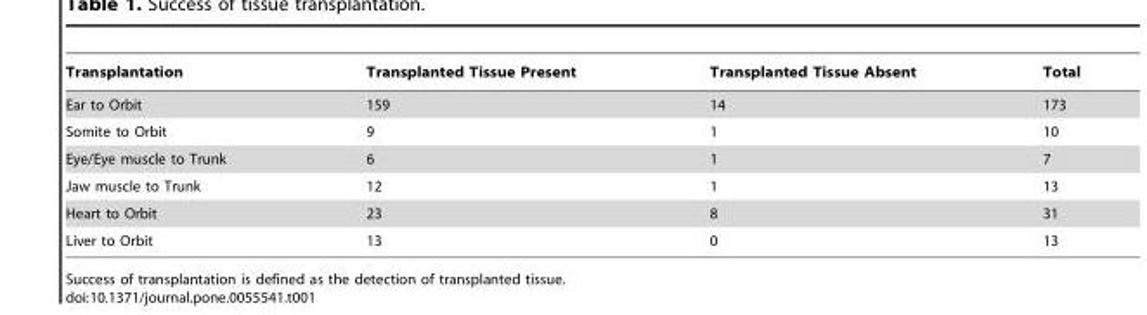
<table><thead><tr><td>Transplantation</td><td>Transplanted Tissue Present</td><td>Transplanted Tissue Absent</td><td>Total</td></tr></thead><tbody><tr><td>Ear to Orbit</td><td>159</td><td>14</td><td>173</td></tr><tr><td>Somite to Orbit</td><td>9</td><td>1</td><td>10</td></tr><tr><td>Eye/Eye muscle to Trunk</td><td>6</td><td>1</td><td>7</td></tr><tr><td>Jaw muscle to Trunk</td><td>12</td><td>1</td><td>13</td></tr><tr><td>Heart to Orbit</td><td>23</td><td>8</td><td>31</td></tr><tr><td>Liver to Orbit</td><td>13</td><td>0</td><td>13</td></tr></tbody></table>